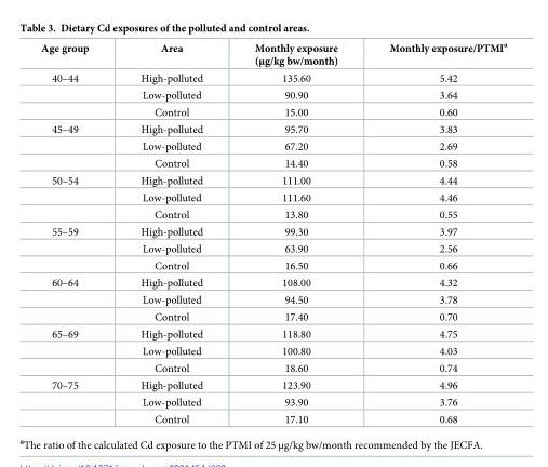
<table><thead><tr><td>Age group</td><td>Area</td><td>Monthly exposure (μg/kg bw/month)</td><td>Monthly exposure/PTMI<sup>a</sup></td></tr></thead><tbody><tr><td rowspan="3">40–44</td><td>High-polluted</td><td>135.60</td><td>5.42</td></tr><tr><td>Low-polluted</td><td>90.90</td><td>3.64</td></tr><tr><td>Control</td><td>15.00</td><td>0.60</td></tr><tr><td rowspan="3">45–49</td><td>High-polluted</td><td>95.70</td><td>3.83</td></tr><tr><td>Low-polluted</td><td>67.20</td><td>2.69</td></tr><tr><td>Control</td><td>14.40</td><td>0.58</td></tr><tr><td rowspan="3">50–54</td><td>High-polluted</td><td>111.00</td><td>4.44</td></tr><tr><td>Low-polluted</td><td>111.60</td><td>4.46</td></tr><tr><td>Control</td><td>13.80</td><td>0.55</td></tr><tr><td rowspan="3">55–59</td><td>High-polluted</td><td>99.30</td><td>3.97</td></tr><tr><td>Low-polluted</td><td>63.90</td><td>2.56</td></tr><tr><td>Control</td><td>16.50</td><td>0.66</td></tr><tr><td rowspan="3">60–64</td><td>High-polluted</td><td>108.00</td><td>4.32</td></tr><tr><td>Low-polluted</td><td>94.50</td><td>3.78</td></tr><tr><td>Control</td><td>17.40</td><td>0.70</td></tr><tr><td rowspan="3">65–69</td><td>High-polluted</td><td>118.80</td><td>4.75</td></tr><tr><td>Low-polluted</td><td>100.80</td><td>4.03</td></tr><tr><td>Control</td><td>18.60</td><td>0.74</td></tr><tr><td rowspan="3">70–75</td><td>High-polluted</td><td>123.90</td><td>4.96</td></tr><tr><td>Low-polluted</td><td>93.90</td><td>3.76</td></tr><tr><td>Control</td><td>17.10</td><td>0.68</td></tr></tbody></table>